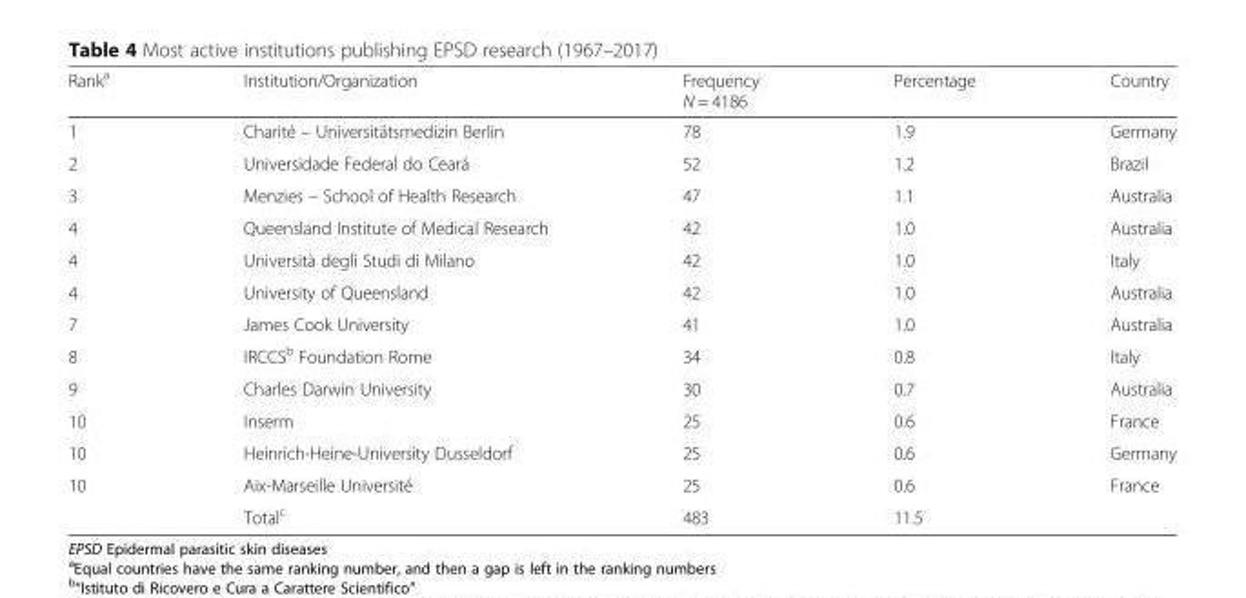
<table><thead><tr><td>Rank<sup>a</sup></td><td>Institution/Organization</td><td>Frequency N = 4186</td><td>Percentage</td><td>Country</td></tr></thead><tbody><tr><td>1</td><td>Charité – Universitätsmedizin Berlin</td><td>78</td><td>1.9</td><td>Germany</td></tr><tr><td>2</td><td>Universidade Federal do Ceará</td><td>52</td><td>1.2</td><td>Brazil</td></tr><tr><td>3</td><td>Menzies – School of Health Research</td><td>47</td><td>1.1</td><td>Australia</td></tr><tr><td>4</td><td>Queensland Institute of Medical Research</td><td>42</td><td>1.0</td><td>Australia</td></tr><tr><td>4</td><td>Università degli Studi di Milano</td><td>42</td><td>1.0</td><td>Italy</td></tr><tr><td>4</td><td>University of Queensland</td><td>42</td><td>1.0</td><td>Australia</td></tr><tr><td>7</td><td>James Cook University</td><td>41</td><td>1.0</td><td>Australia</td></tr><tr><td>8</td><td>IRCCS<sup>b</sup> Foundation Rome</td><td>34</td><td>0.8</td><td>Italy</td></tr><tr><td>9</td><td>Charles Darwin University</td><td>30</td><td>0.7</td><td>Australia</td></tr><tr><td>10</td><td>Inserm</td><td>25</td><td>0.6</td><td>France</td></tr><tr><td>10</td><td>Heinrich-Heine-University Dusseldorf</td><td>25</td><td>0.6</td><td>Germany</td></tr><tr><td rowspan="2">10</td><td>Aix-Marseille Université</td><td>25</td><td>0.6</td><td>France</td></tr><tr><td>Total<sup>c</sup></td><td>483</td><td>11.5</td><td></td></tr></tbody></table>